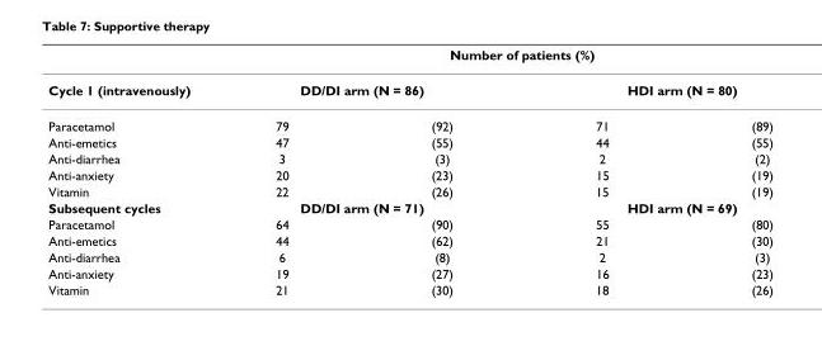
<table><thead><tr><td rowspan="3">Cycle 1 (intravenously) Paracetamol</td><td colspan="4">Number of patients (%)</td></tr><tr><td colspan="2">DD/DI arm (N = 86)</td><td colspan="2">HDI arm (N = 80)</td></tr><tr><td>79</td><td>(92)</td><td>71</td><td>(89)</td></tr></thead><tbody><tr><td>Anti-emetics</td><td>47</td><td>(55)</td><td>44</td><td>(55)</td></tr><tr><td>Anti-diarrhea</td><td>3</td><td>(3)</td><td>2</td><td>(2)</td></tr><tr><td>Anti-anxiety</td><td>20</td><td>(23)</td><td>15</td><td>(19)</td></tr><tr><td>Vitamin</td><td>22</td><td>(26)</td><td>15</td><td>(19)</td></tr><tr><td>Subsequent cycles</td><td colspan="2">DD/DI arm (N = 71)</td><td colspan="2">HDI arm (N = 69)</td></tr><tr><td>Paracetamol</td><td>64</td><td>(90)</td><td>55</td><td>(80)</td></tr><tr><td>Anti-emetics</td><td>44</td><td>(62)</td><td>21</td><td>(30)</td></tr><tr><td>Anti-diarrhea</td><td>6</td><td>(8)</td><td>2</td><td>(3)</td></tr><tr><td>Anti-anxiety</td><td>19</td><td>(27)</td><td>16</td><td>(23)</td></tr><tr><td>Vitamin</td><td>21</td><td>(30)</td><td>18</td><td>(26)</td></tr></tbody></table>